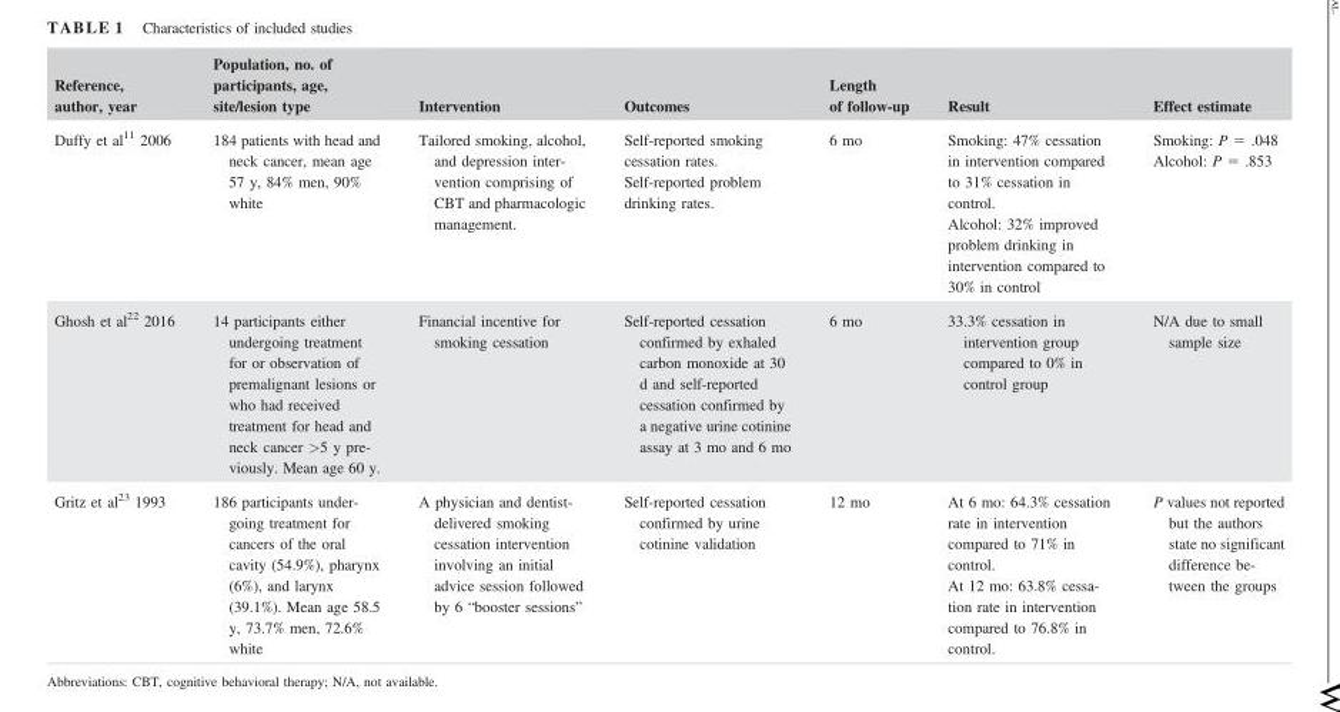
<table><thead><tr><td>Reference, author, year</td><td>Population, no. of participants, age, site/lesion type</td><td>Intervention</td><td>Outcomes</td><td>Length of follow-up</td><td>Result</td><td>Effect estimate</td></tr></thead><tbody><tr><td>Duffy et al<sup>11</sup> 2006</td><td>184 patients with head and neck cancer, mean age 57 y, 84% men, 90% white</td><td>Tailored smoking, alcohol, and depression inter- vention comprising of CBT and pharmacologic management.</td><td>Self-reported smoking cessation rates. Self-reported problem drinking rates.</td><td>6 mo</td><td>Smoking: 47% cessation in intervention compared to 31% cessation in control. Alcohol: 32% improved problem drinking in intervention compared to 30% in control</td><td>Smoking: P = .048 Alcohol: P = .853</td></tr><tr><td>Ghosh et al<sup>22</sup> 2016</td><td>14 participants either undergoing treatment for or observation of premalignant lesions or who had received treatment for head and neck cancer &gt;5 y pre- viously. Mean age 60 y.</td><td>Financial incentive for smoking cessation</td><td>Self-reported cessation confirmed by exhaled carbon monoxide at 30 d and self-reported cessation confirmed by a negative urine cotinine assay at 3 mo and 6 mo</td><td>6 mo</td><td>33.3% cessation in intervention group compared to 0% in control group</td><td>N/A due to small sample size</td></tr><tr><td>Gritz et al<sup>23</sup> 1993</td><td>186 participants under- going treatment for cancers of the oral cavity (54.9%), pharynx (6%), and larynx (39.1%). Mean age 58.5 y, 73.7% men, 72.6% white</td><td>A physician and dentist- delivered smoking cessation intervention involving an initial advice session followed by 6 “booster sessions”</td><td>Self-reported cessation confirmed by urine cotinine validation</td><td>12 mo</td><td>At 6 mo: 64.3% cessation rate in intervention compared to 71% in control. At 12 mo: 63.8% cessa- tion rate in intervention compared to 76.8% in control.</td><td>P values not reported but the authors state no significant difference be- tween the groups</td></tr></tbody></table>